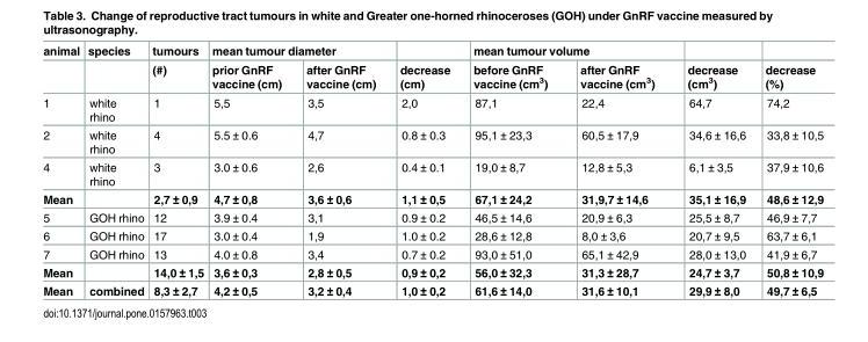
<table><thead><tr><td rowspan="2">animal</td><td rowspan="2">species</td><td rowspan="2">tumours (#)</td><td colspan="2">mean tumour diameter</td><td rowspan="2">decrease (cm)</td><td colspan="2">mean tumour volume</td><td rowspan="2">decrease (cm<sup>3</sup>)</td><td rowspan="2">decrease (%)</td></tr><tr><td>prior GnRF vaccine (cm)</td><td>after GnRF vaccine (cm)</td><td>before GnRF vaccine (cm<sup>3</sup>)</td><td>after GnRF vaccine (cm<sup>3</sup>)</td></tr></thead><tbody><tr><td>1</td><td>white rhino</td><td>1</td><td>5,5</td><td>3,5</td><td>2,0</td><td>87,1</td><td>22,4</td><td>64,7</td><td>74,2</td></tr><tr><td>2</td><td>white rhino</td><td>4</td><td>5.5 ± 0.6</td><td>4,7</td><td>0.8 ± 0.3</td><td>95,1 ± 23,3</td><td>60,5 ± 17,9</td><td>34,6 ± 16,6</td><td>33,8 ± 10,5</td></tr><tr><td>4</td><td>white rhino</td><td>3</td><td>3.0 ± 0.6</td><td>2,6</td><td>0.4 ± 0.1</td><td>19,0 ± 8,7</td><td>12,8 ± 5,3</td><td>6,1 ± 3,5</td><td>37,9 ± 10,6</td></tr><tr><td>Mean</td><td></td><td>2,7 ± 0,9</td><td>4,7 ± 0,8</td><td>3,6 ± 0,6</td><td>1,1 ± 0,5</td><td>67,1 ± 24,2</td><td>31,9,7 ± 14,6</td><td>35,1 ± 16,9</td><td>48,6 ± 12,9</td></tr><tr><td>5</td><td>GOH rhino</td><td>12</td><td>3.9 ± 0.4</td><td>3,1</td><td>0.9 ± 0.2</td><td>46,5 ± 14,6</td><td>20,9 ± 6,3</td><td>25,5 ± 8,7</td><td>46,9 ± 7,7</td></tr><tr><td>6</td><td>GOH rhino</td><td>17</td><td>3.0 ± 0.4</td><td>1,9</td><td>1.0 ± 0.2</td><td>28,6 ± 12,8</td><td>8,0 ± 3,6</td><td>20,7 ± 9,5</td><td>63,7 ± 6,1</td></tr><tr><td>7</td><td>GOH rhino</td><td>13</td><td>4.0 ± 0.8</td><td>3,4</td><td>0.7 ± 0.2</td><td>93,0 ± 51,0</td><td>65,1 ± 42,9</td><td>28,0 ± 13,0</td><td>41,9 ± 6,7</td></tr><tr><td>Mean</td><td></td><td>14,0 ± 1,5</td><td>3,6 ± 0,3</td><td>2,8 ± 0,5</td><td>0,9 ± 0,2</td><td>56,0 ± 32,3</td><td>31,3 ± 28,7</td><td>24,7 ± 3,7</td><td>50,8 ± 10,9</td></tr><tr><td>Mean</td><td>combined</td><td>8,3 ± 2,7</td><td>4,2 ± 0,5</td><td>3,2 ± 0,4</td><td>1,0 ± 0,2</td><td>61,6 ± 14,0</td><td>31,6 ± 10,1</td><td>29,9 ± 8,0</td><td>49,7 ± 6,5</td></tr></tbody></table>